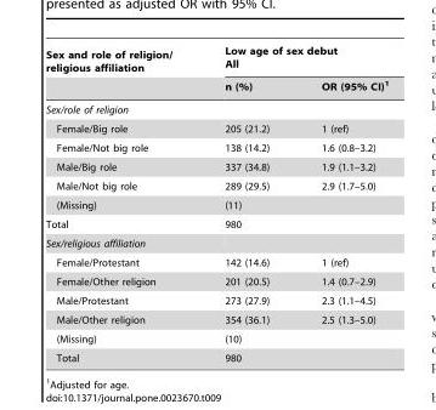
<table><thead><tr><td rowspan="2">Sex and role of religion/ religious affiliation</td><td colspan="2">Low age of sex debut All</td></tr><tr><td>n (%)</td><td>OR (95% CI)<sup>1</sup></td></tr></thead><tbody><tr><td colspan="3">Sex/role of religion</td></tr><tr><td>Female/Big role</td><td>205 (21.2)</td><td>1 (ref)</td></tr><tr><td>Female/Not big role</td><td>138 (14.2)</td><td>1.6 (0.8–3.2)</td></tr><tr><td>Male/Big role</td><td>337 (34.8)</td><td>1.9 (1.1–3.2)</td></tr><tr><td>Male/Not big role</td><td>289 (29.5)</td><td>2.9 (1.7–5.0)</td></tr><tr><td>(Missing)</td><td>(11)</td><td></td></tr><tr><td>Total</td><td>980</td><td></td></tr><tr><td colspan="3">Sex/religious affiliation</td></tr><tr><td>Female/Protestant</td><td>142 (14.6)</td><td>1 (ref)</td></tr><tr><td>Female/Other religion</td><td>201 (20.5)</td><td>1.4 (0.7–2.9)</td></tr><tr><td>Male/Protestant</td><td>273 (27.9)</td><td>2.3 (1.1–4.5)</td></tr><tr><td>Male/Other religion</td><td>354 (36.1)</td><td>2.5 (1.3–5.0)</td></tr><tr><td>(Missing)</td><td>(10)</td><td></td></tr><tr><td>Total</td><td>980</td><td></td></tr></tbody></table>